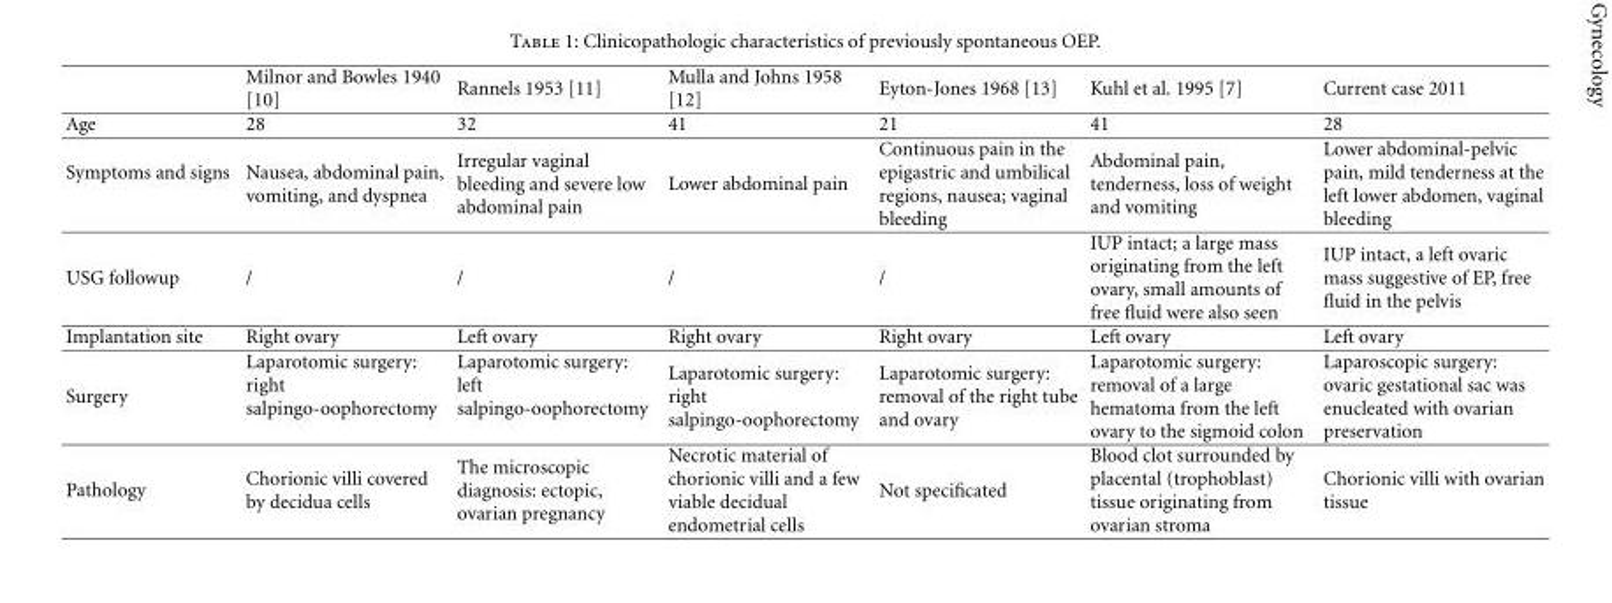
<table><thead><tr><td></td><td>Milnor and Bowles 1940 [10]</td><td>Rannels 1953 [11]</td><td>Mulla and Johns 1958 [12]</td><td>Eyton-Jones 1968 [13]</td><td>Kuhl et al. 1995 [7]</td><td>Current case 2011</td></tr></thead><tbody><tr><td>Age</td><td>28</td><td>32</td><td>41</td><td>21</td><td>41</td><td>28</td></tr><tr><td>Symptoms and signs</td><td>Nausea, abdominal pain, vomiting, and dyspnea</td><td>Irregular vaginal bleeding and severe low abdominal pain</td><td>Lower abdominal pain</td><td>Continuous pain in the epigastric and umbilical regions, nausea; vaginal bleeding</td><td>Abdominal pain, tenderness, loss of weight and vomiting</td><td>Lower abdominal-pelvic pain, mild tenderness at the left lower abdomen, vaginal bleeding</td></tr><tr><td>USG followup</td><td>/</td><td>/</td><td>/</td><td>/</td><td>IUP intact; a large mass originating from the left ovary, small amounts of free fluid were also seen</td><td>IUP intact, a left ovaric mass suggestive of EP, free fluid in the pelvis</td></tr><tr><td>Implantation site</td><td>Right ovary</td><td>Left ovary</td><td>Right ovary</td><td>Right ovary</td><td>Left ovary</td><td>Left ovary</td></tr><tr><td>Surgery</td><td>Laparotomic surgery: right salpingo-oophorectomy</td><td>Laparotomic surgery: left salpingo-oophorectomy</td><td>Laparotomic surgery: right salpingo-oophorectomy</td><td>Laparotomic surgery: removal of the right tube and ovary</td><td>Laparotomic surgery: removal of a large hematoma from the left ovary to the sigmoid colon</td><td>Laparoscopic surgery: ovaric gestational sac was enucleated with ovarian preservation</td></tr><tr><td>Pathology</td><td>Chorionic villi covered by decidua cells</td><td>The microscopic diagnosis: ectopic, ovarian pregnancy</td><td>Necrotic material of chorionic villi and a few viable decidual endometrial cells</td><td>Not specificated</td><td>Blood clot surrounded by placental (trophoblast) tissue originating from ovarian stroma</td><td>Chorionic villi with ovarian tissue</td></tr></tbody></table>